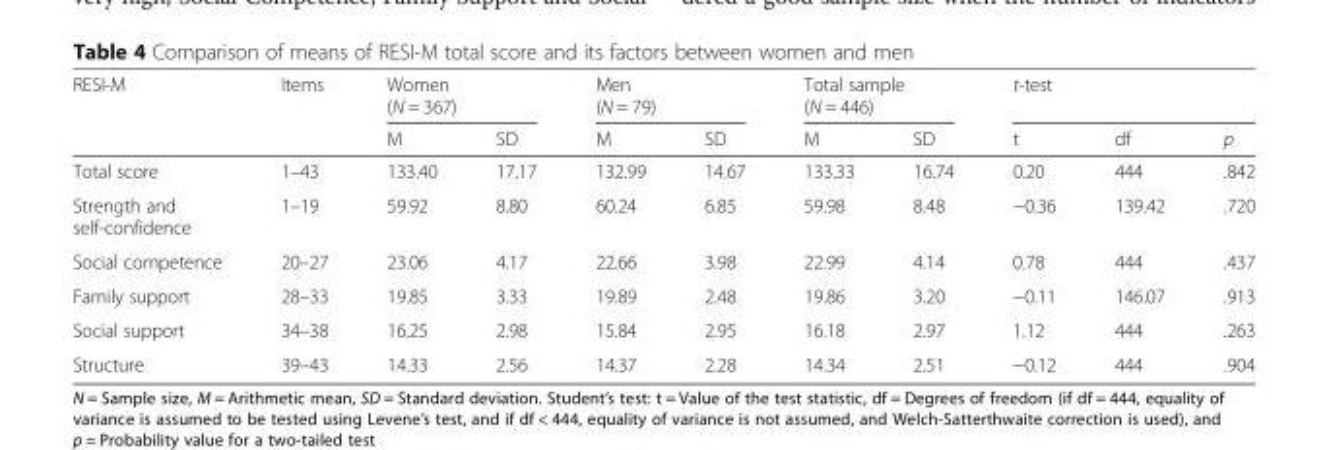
<table><thead><tr><td rowspan="2">RESI-M</td><td rowspan="2">Items</td><td colspan="2">Women (N = 367)</td><td colspan="2">Men (N = 79)</td><td colspan="2">Total sample (N = 446)</td><td colspan="3">t-test</td></tr><tr><td>M</td><td>SD</td><td>M</td><td>SD</td><td>M</td><td>SD</td><td>t</td><td>df</td><td>p</td></tr></thead><tbody><tr><td>Total score</td><td>1–43</td><td>133.40</td><td>17.17</td><td>132.99</td><td>14.67</td><td>133.33</td><td>16.74</td><td>0.20</td><td>444</td><td>.842</td></tr><tr><td>Strength and self-confidence</td><td>1–19</td><td>59.92</td><td>8.80</td><td>60.24</td><td>6.85</td><td>59.98</td><td>8.48</td><td>−0.36</td><td>139.42</td><td>.720</td></tr><tr><td>Social competence</td><td>20–27</td><td>23.06</td><td>4.17</td><td>22.66</td><td>3.98</td><td>22.99</td><td>4.14</td><td>0.78</td><td>444</td><td>.437</td></tr><tr><td>Family support</td><td>28–33</td><td>19.85</td><td>3.33</td><td>19.89</td><td>2.48</td><td>19.86</td><td>3.20</td><td>−0.11</td><td>146.07</td><td>.913</td></tr><tr><td>Social support</td><td>34–38</td><td>16.25</td><td>2.98</td><td>15.84</td><td>2.95</td><td>16.18</td><td>2.97</td><td>1.12</td><td>444</td><td>.263</td></tr><tr><td>Structure</td><td>39–43</td><td>14.33</td><td>2.56</td><td>14.37</td><td>2.28</td><td>14.34</td><td>2.51</td><td>−0.12</td><td>444</td><td>.904</td></tr></tbody></table>